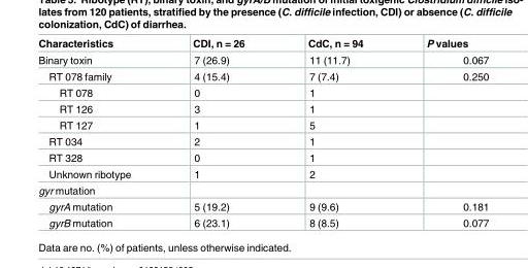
<table><thead><tr><td>Characteristics</td><td>CDI, n = 26</td><td>CdC, n = 94</td><td>P values</td></tr></thead><tbody><tr><td>Binary toxin</td><td>7 (26.9)</td><td>11 (11.7)</td><td>0.067</td></tr><tr><td>RT 078 family</td><td>4 (15.4)</td><td>7 (7.4)</td><td>0.250</td></tr><tr><td>RT 078</td><td>0</td><td>1</td><td></td></tr><tr><td>RT 126</td><td>3</td><td>1</td><td></td></tr><tr><td>RT 127</td><td>1</td><td>5</td><td></td></tr><tr><td>RT 034</td><td>2</td><td>1</td><td></td></tr><tr><td>RT 328</td><td>0</td><td>1</td><td></td></tr><tr><td>Unknown ribotype</td><td>1</td><td>2</td><td></td></tr><tr><td colspan="4">gyr mutation</td></tr><tr><td>gyrA mutation</td><td>5 (19.2)</td><td>9 (9.6)</td><td>0.181</td></tr><tr><td>gyrB mutation</td><td>6 (23.1)</td><td>8 (8.5)</td><td>0.077</td></tr></tbody></table>